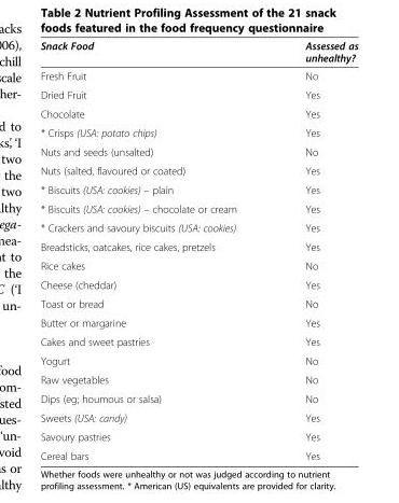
<table><thead><tr><td>Snack Food</td><td>Assessed as unhealthy?</td></tr></thead><tbody><tr><td>Fresh Fruit</td><td>No</td></tr><tr><td>Dried Fruit</td><td>Yes</td></tr><tr><td>Chocolate</td><td>Yes</td></tr><tr><td>* Crisps (USA: potato chips)</td><td>Yes</td></tr><tr><td>Nuts and seeds (unsalted)</td><td>No</td></tr><tr><td>Nuts (salted, flavoured or coated)</td><td>Yes</td></tr><tr><td>* Biscuits (USA: cookies) – plain</td><td>Yes</td></tr><tr><td>* Biscuits (USA: cookies) – chocolate or cream</td><td>Yes</td></tr><tr><td>* Crackers and savoury biscuits (USA: cookies)</td><td>Yes</td></tr><tr><td>Breadsticks, oatcakes, rice cakes, pretzels</td><td>Yes</td></tr><tr><td>Rice cakes</td><td>No</td></tr><tr><td>Cheese (cheddar)</td><td>Yes</td></tr><tr><td>Toast or bread</td><td>No</td></tr><tr><td>Butter or margarine</td><td>Yes</td></tr><tr><td>Cakes and sweet pastries</td><td>Yes</td></tr><tr><td>Yogurt</td><td>No</td></tr><tr><td>Raw vegetables</td><td>No</td></tr><tr><td>Dips (eg; houmous or salsa)</td><td>No</td></tr><tr><td>Sweets (USA: candy)</td><td>Yes</td></tr><tr><td>Savoury pastries</td><td>Yes</td></tr><tr><td>Cereal bars</td><td>Yes</td></tr></tbody></table>